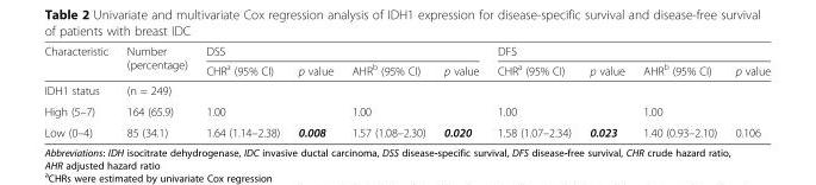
<table><thead><tr><td rowspan="2">Characteristic</td><td rowspan="2">Number (percentage)</td><td colspan="4">DSS</td><td colspan="4">DFS</td></tr><tr><td>CHR<sup>a</sup> (95% CI)</td><td>p value</td><td>AHR<sup>b</sup> (95% CI)</td><td>p value</td><td>CHR<sup>a</sup> (95% CI)</td><td>p value</td><td>AHR<sup>b</sup> (95% CI)</td><td>p value</td></tr></thead><tbody><tr><td>IDH1 status</td><td>(n = 249)</td><td></td><td></td><td></td><td></td><td></td><td></td><td></td><td></td></tr><tr><td>High (5–7)</td><td>164 (65.9)</td><td>1.00</td><td></td><td>1.00</td><td></td><td>1.00</td><td></td><td>1.00</td><td></td></tr><tr><td>Low (0–4)</td><td>85 (34.1)</td><td>1.64 (1.14–2.38)</td><td>0.008</td><td>1.57 (1.08–2.30)</td><td>0.020</td><td>1.58 (1.07–2.34)</td><td>0.023</td><td>1.40 (0.93–2.10)</td><td>0.106</td></tr></tbody></table>